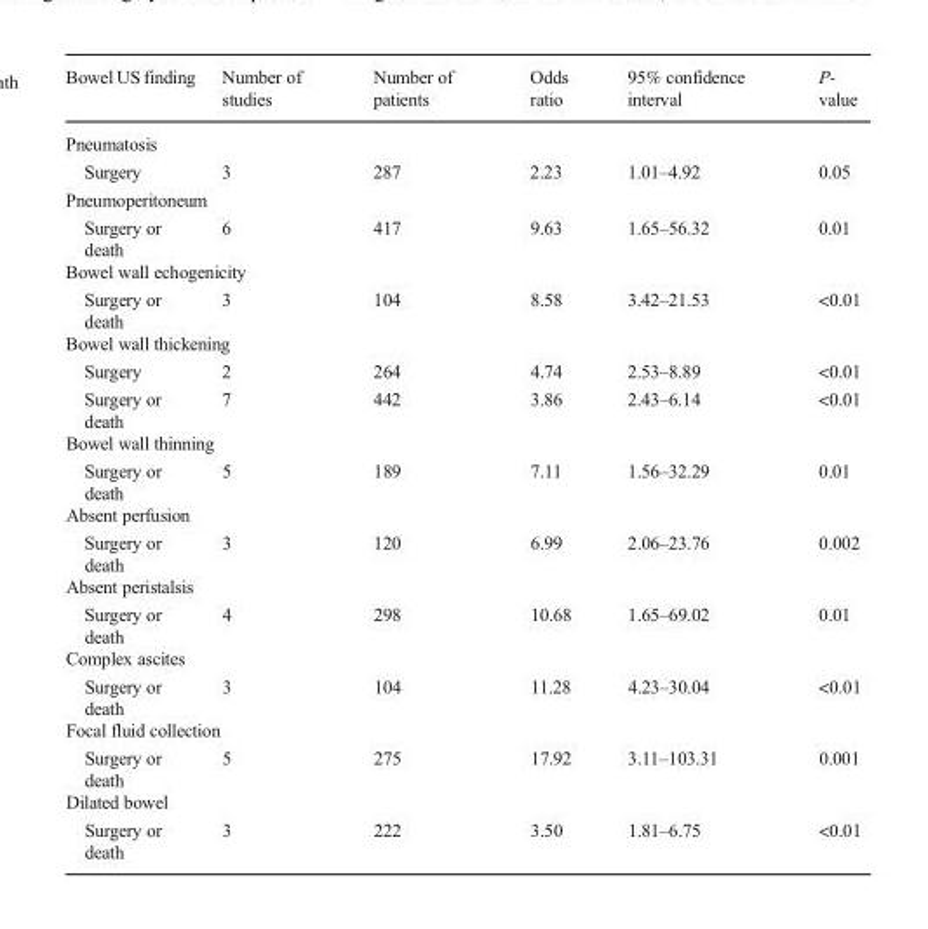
<table><thead><tr><td>Bowel US finding</td><td>Number of studies</td><td>Number of patients</td><td>Odds ratio</td><td>95% confidence interval</td><td>P- value</td></tr></thead><tbody><tr><td colspan="6">Pneumatosis</td></tr><tr><td>Surgery</td><td>3</td><td>287</td><td>2.23</td><td>1.01–4.92</td><td>0.05</td></tr><tr><td colspan="6">Pneumoperitoneum</td></tr><tr><td>Surgery or death</td><td>6</td><td>417</td><td>9.63</td><td>1.65–56.32</td><td>0.01</td></tr><tr><td colspan="6">Bowel wall echogenicity</td></tr><tr><td>Surgery or death</td><td>3</td><td>104</td><td>8.58</td><td>3.42–21.53</td><td>&lt;0.01</td></tr><tr><td colspan="6">Bowel wall thickening</td></tr><tr><td>Surgery</td><td>2</td><td>264</td><td>4.74</td><td>2.53–8.89</td><td>&lt;0.01</td></tr><tr><td>Surgery or death</td><td>7</td><td>442</td><td>3.86</td><td>2.43–6.14</td><td>&lt;0.01</td></tr><tr><td colspan="6">Bowel wall thinning</td></tr><tr><td>Surgery or death</td><td>5</td><td>189</td><td>7.11</td><td>1.56–32.29</td><td>0.01</td></tr><tr><td colspan="6">Absent perfusion</td></tr><tr><td>Surgery or death</td><td>3</td><td>120</td><td>6.99</td><td>2.06–23.76</td><td>0.002</td></tr><tr><td colspan="6">Absent peristalsis</td></tr><tr><td>Surgery or death</td><td>4</td><td>298</td><td>10.68</td><td>1.65–69.02</td><td>0.01</td></tr><tr><td colspan="6">Complex ascites</td></tr><tr><td>Surgery or death</td><td>3</td><td>104</td><td>11.28</td><td>4.23–30.04</td><td>&lt;0.01</td></tr><tr><td colspan="6">Focal fluid collection</td></tr><tr><td>Surgery or death</td><td>5</td><td>275</td><td>17.92</td><td>3.11–103.31</td><td>0.001</td></tr><tr><td colspan="6">Dilated bowel</td></tr><tr><td>Surgery or death</td><td>3</td><td>222</td><td>3.50</td><td>1.81–6.75</td><td>&lt;0.01</td></tr></tbody></table>